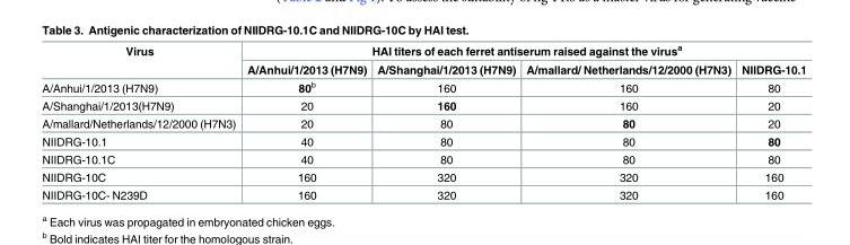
<table><thead><tr><td rowspan="2">Virus</td><td colspan="4">HAI titers of each ferret antiserum raised against the virus<sup>a</sup></td></tr><tr><td>A/Anhui/1/2013 (H7N9)</td><td>A/Shanghai/1/2013 (H7N9)</td><td>A/mallard/ Netherlands/12/2000 (H7N3)</td><td>NIIDRG-10.1</td></tr></thead><tbody><tr><td>A/Anhui/1/2013 (H7N9)</td><td>80<sup>b</sup></td><td>160</td><td>160</td><td>80</td></tr><tr><td>A/Shanghai/1/2013(H7N9)</td><td>20</td><td>160</td><td>160</td><td>20</td></tr><tr><td>A/mallard/Netherlands/12/2000 (H7N3)</td><td>20</td><td>80</td><td>80</td><td>20</td></tr><tr><td>NIIDRG-10.1</td><td>40</td><td>80</td><td>80</td><td>80</td></tr><tr><td>NIIDRG-10.1C</td><td>40</td><td>80</td><td>80</td><td>80</td></tr><tr><td>NIIDRG-10C</td><td>160</td><td>320</td><td>320</td><td>160</td></tr><tr><td>NIIDRG-10C- N239D</td><td>160</td><td>320</td><td>320</td><td>160</td></tr></tbody></table>